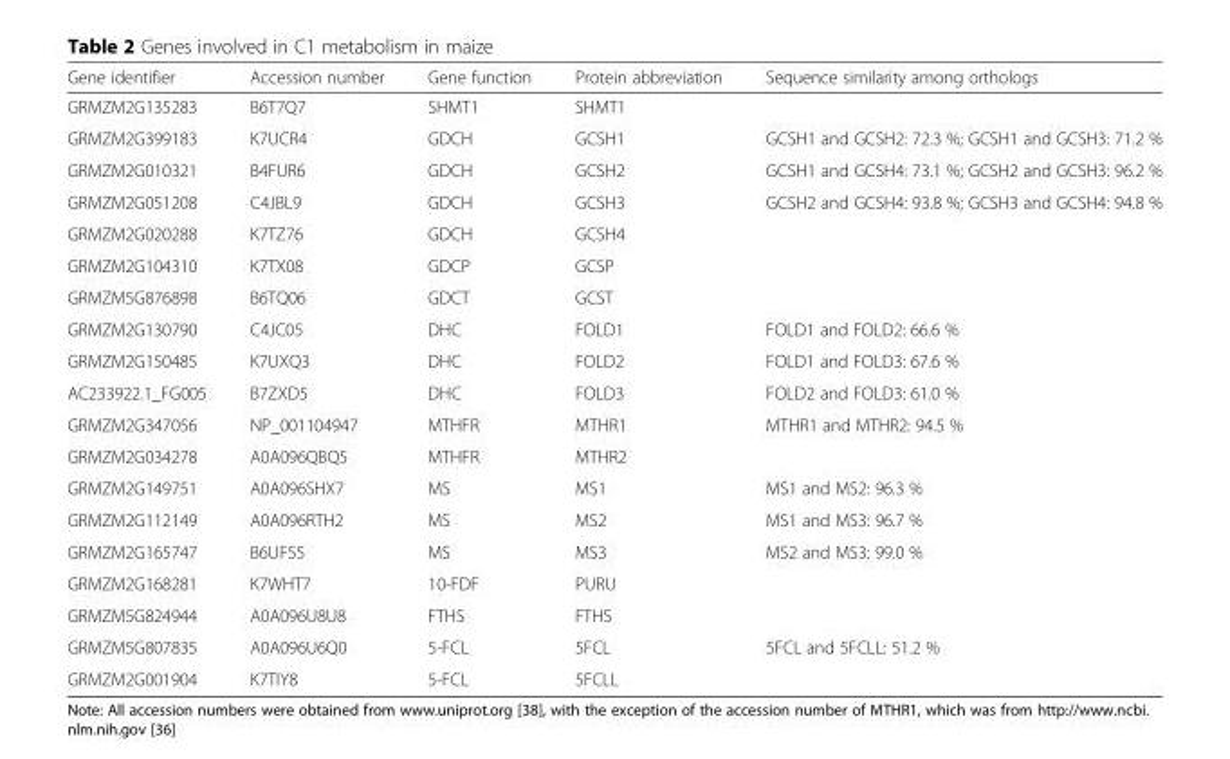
<table><thead><tr><td>Gene identifier</td><td>Accession number</td><td>Gene function</td><td>Protein abbreviation</td><td>Sequence similarity among orthologs</td></tr></thead><tbody><tr><td>GRMZM2G135283</td><td>B6T7Q7</td><td>SHMT1</td><td>SHMT1</td><td></td></tr><tr><td>GRMZM2G399183</td><td>K7UCR4</td><td>GDCH</td><td>GCSH1</td><td>GCSH1 and GCSH2: 72.3 %; GCSH1 and GCSH3: 71.2 %</td></tr><tr><td>GRMZM2G010321</td><td>B4FUR6</td><td>GDCH</td><td>GCSH2</td><td>GCSH1 and GCSH4: 73.1 %; GCSH2 and GCSH3: 96.2 %</td></tr><tr><td>GRMZM2G051208</td><td>C4JBL9</td><td>GDCH</td><td>GCSH3</td><td rowspan="2">GCSH2 and GCSH4: 93.8 %; GCSH3 and GCSH4: 94.8 %</td></tr><tr><td>GRMZM2G020288</td><td>K7TZ76</td><td>GDCH</td><td>GCSH4</td></tr><tr><td>GRMZM2G104310</td><td>K7TX08</td><td>GDCP</td><td>GCSP</td><td></td></tr><tr><td>GRMZM5G876898</td><td>B6TQ06</td><td>GDCT</td><td>GCST</td><td></td></tr><tr><td>GRMZM2G130790</td><td>C4JC05</td><td>DHC</td><td>FOLD1</td><td>FOLD1 and FOLD2: 66.6 %</td></tr><tr><td>GRMZM2G150485</td><td>K7UXQ3</td><td>DHC</td><td>FOLD2</td><td>FOLD1 and FOLD3: 67.6 %</td></tr><tr><td>AC233922.1_FG005</td><td>B7ZXD5</td><td>DHC</td><td>FOLD3</td><td>FOLD2 and FOLD3: 61.0 %</td></tr><tr><td>GRMZM2G347056</td><td>NP_001104947</td><td>MTHFR</td><td>MTHR1</td><td rowspan="2">MTHR1 and MTHR2: 94.5 %</td></tr><tr><td>GRMZM2G034278</td><td>A0A096QBQ5</td><td>MTHFR</td><td>MTHR2</td></tr><tr><td>GRMZM2G149751</td><td>A0A096SHX7</td><td>MS</td><td>MS1</td><td>MS1 and MS2: 96.3 %</td></tr><tr><td>GRMZM2G112149</td><td>A0A096RTH2</td><td>MS</td><td>MS2</td><td>MS1 and MS3: 96.7 %</td></tr><tr><td>GRMZM2G165747</td><td>B6UF55</td><td>MS</td><td>MS3</td><td>MS2 and MS3: 99.0 %</td></tr><tr><td>GRMZM2G168281</td><td>K7WHT7</td><td>10-FDF</td><td>PURU</td><td></td></tr><tr><td>GRMZM5G824944</td><td>A0A096U8U8</td><td>FTHS</td><td>FTHS</td><td></td></tr><tr><td>GRMZM5G807835</td><td>A0A096U6Q0</td><td>5-FCL</td><td>5FCL</td><td rowspan="2">5FCL and 5FCLL: 51.2 %</td></tr><tr><td>GRMZM2G001904</td><td>K7TIY8</td><td>5-FCL</td><td>5FCLL</td></tr></tbody></table>